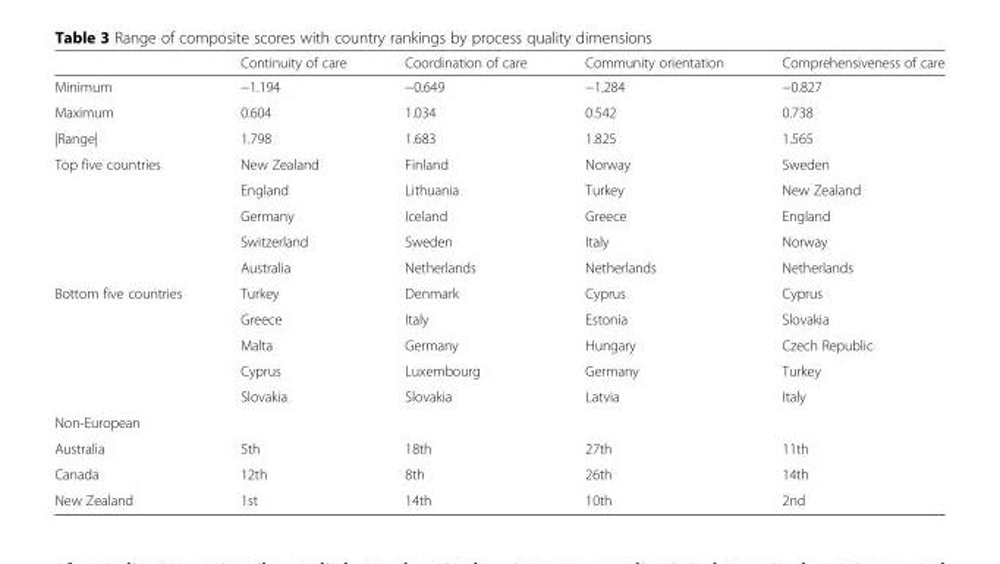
<table><thead><tr><td></td><td>Continuity of care</td><td>Coordination of care</td><td>Community orientation</td><td>Comprehensiveness of care</td></tr></thead><tbody><tr><td>Minimum</td><td>−1.194</td><td>−0.649</td><td>−1.284</td><td>−0.827</td></tr><tr><td>Maximum</td><td>0.604</td><td>1.034</td><td>0.542</td><td>0.738</td></tr><tr><td>|Range|</td><td>1.798</td><td>1.683</td><td>1.825</td><td>1.565</td></tr><tr><td rowspan="5">Top five countries</td><td>New Zealand</td><td>Finland</td><td>Norway</td><td>Sweden</td></tr><tr><td>England</td><td>Lithuania</td><td>Turkey</td><td>New Zealand</td></tr><tr><td>Germany</td><td>Iceland</td><td>Greece</td><td>England</td></tr><tr><td>Switzerland</td><td>Sweden</td><td>Italy</td><td>Norway</td></tr><tr><td>Australia</td><td>Netherlands</td><td>Netherlands</td><td>Netherlands</td></tr><tr><td rowspan="5">Bottom five countries</td><td>Turkey</td><td>Denmark</td><td>Cyprus</td><td>Cyprus</td></tr><tr><td>Greece</td><td>Italy</td><td>Estonia</td><td>Slovakia</td></tr><tr><td>Malta</td><td>Germany</td><td>Hungary</td><td>Czech Republic</td></tr><tr><td>Cyprus</td><td>Luxembourg</td><td>Germany</td><td>Turkey</td></tr><tr><td>Slovakia</td><td>Slovakia</td><td>Latvia</td><td>Italy</td></tr><tr><td colspan="5">Non-European</td></tr><tr><td>Australia</td><td>5th</td><td>18th</td><td>27th</td><td>11th</td></tr><tr><td>Canada</td><td>12th</td><td>8th</td><td>26th</td><td>14th</td></tr><tr><td>New Zealand</td><td>1st</td><td>14th</td><td>10th</td><td>2nd</td></tr></tbody></table>